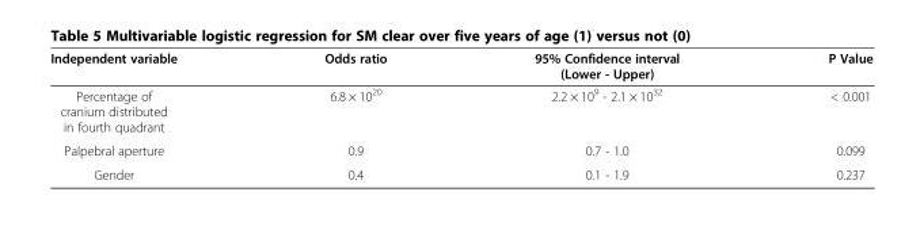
<table><thead><tr><td>Independent variable</td><td>Odds ratio</td><td>95% Confidence interval (Lower - Upper)</td><td>P Value</td></tr></thead><tbody><tr><td>Percentage of cranium distributed in fourth quadrant</td><td>6.8 × 10<sup>20</sup></td><td>2.2 × 10<sup>9</sup> - 2.1 × 10<sup>32</sup></td><td>&lt; 0.001</td></tr><tr><td>Palpebral aperture</td><td>0.9</td><td>0.7 - 1.0</td><td>0.099</td></tr><tr><td>Gender</td><td>0.4</td><td>0.1 - 1.9</td><td>0.237</td></tr></tbody></table>